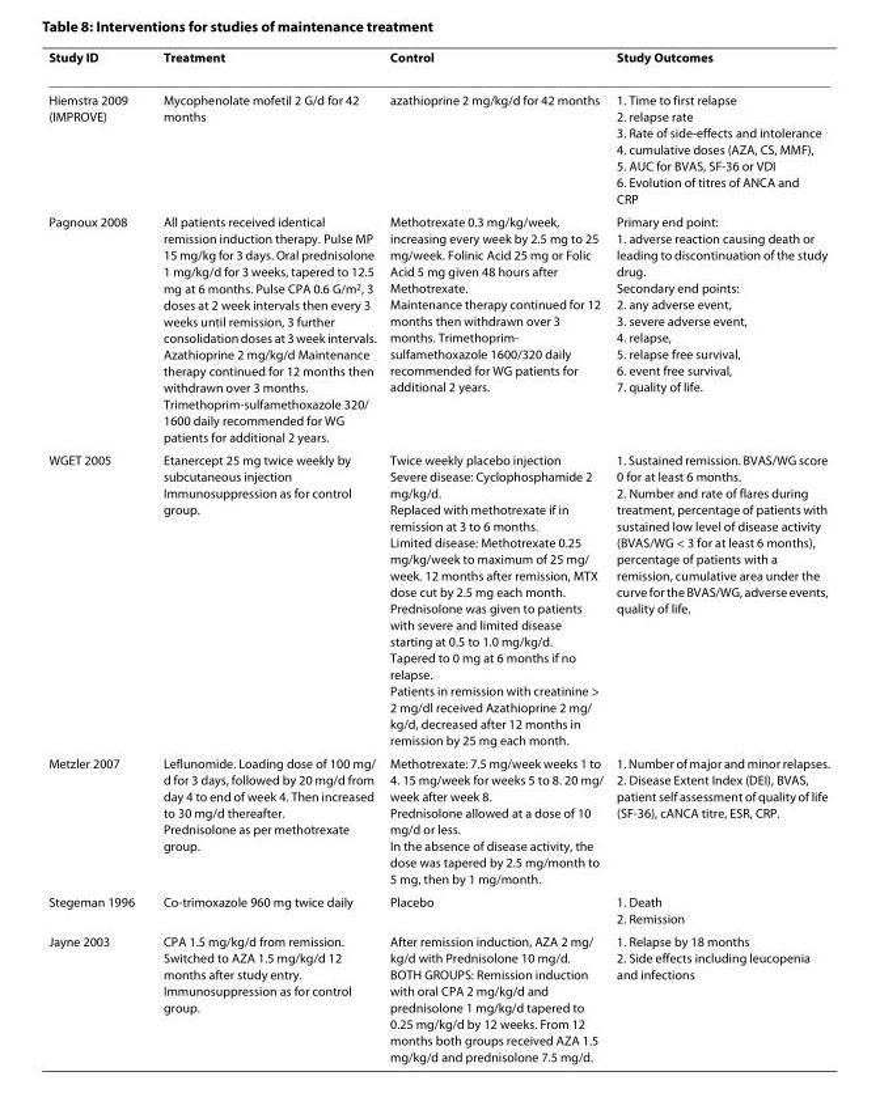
<table><thead><tr><td>Study ID</td><td>Treatment</td><td>Control</td><td>Study Outcomes</td></tr></thead><tbody><tr><td>Hiemstra 2009 (IMPROVE)</td><td>Mycophenolate mofetil 2 G/d for 42 months</td><td>azathioprine 2 mg/kg/d for 42 months</td><td>1. Time to first relapse 2. relapse rate 3. Rate of side-effects and intolerance 4. cumulative doses (AZA, CS, MMF), 5. AUC for BVAS, SF-36 or VDI 6. Evolution of titres of ANCA and CRP</td></tr><tr><td>Pagnoux 2008</td><td>All patients received identical remission induction therapy. Pulse MP 15 mg/kg for 3 days. Oral prednisolone 1 mg/kg/d for 3 weeks, tapered to 12.5 mg at 6 months. Pulse CPA 0.6 G/m<sup>2</sup>, 3 doses at 2 week intervals then every 3 weeks until remission, 3 further consolidation doses at 3 week intervals. Azathioprine 2 mg/kg/d Maintenance therapy continued for 12 months then withdrawn over 3 months. Trimethoprim-sulfamethoxazole 320/ 1600 daily recommended for WG patients for additional 2 years.</td><td>Methotrexate 0.3 mg/kg/week, increasing every week by 2.5 mg to 25 mg/week. Folinic Acid 25 mg or Folic Acid 5 mg given 48 hours after Methotrexate. Maintenance therapy continued for 12 months then withdrawn over 3 months. Trimethoprim- sulfamethoxazole 1600/320 daily recommended for WG patients for additional 2 years.</td><td>Primary end point: 1. adverse reaction causing death or leading to discontinuation of the study drug. Secondary end points: 2. any adverse event, 3. severe adverse event, 4. relapse, 5. relapse free survival, 6. event free survival, 7. quality of life.</td></tr><tr><td>WGET 2005</td><td>Etanercept 25 mg twice weekly by subcutaneous injection Immunosuppression as for control group.</td><td>Twice weekly placebo injection Severe disease: Cyclophosphamide 2 mg/kg/d. Replaced with methotrexate if in remission at 3 to 6 months. Limited disease: Methotrexate 0.25 mg/kg/week to maximum of 25 mg/ week. 12 months after remission, MTX dose cut by 2.5 mg each month. Prednisolone was given to patients with severe and limited disease starting at 0.5 to 1.0 mg/kg/d. Tapered to 0 mg at 6 months if no relapse. Patients in remission with creatinine &gt; 2 mg/dl received Azathioprine 2 mg/ kg/d, decreased after 12 months in remission by 25 mg each month.</td><td>1. Sustained remission. BVAS/WG score 0 for at least 6 months. 2. Number and rate of flares during treatment, percentage of patients with sustained low level of disease activity (BVAS/WG &lt; 3 for at least 6 months), percentage of patients with a remission, cumulative area under the curve for the BVAS/WG, adverse events, quality of life.</td></tr><tr><td>Metzler 2007</td><td>Leflunomide. Loading dose of 100 mg/ d for 3 days, followed by 20 mg/d from day 4 to end of week 4. Then increased to 30 mg/d thereafter. Prednisolone as per methotrexate group.</td><td>Methotrexate: 7.5 mg/week weeks 1 to 4. 15 mg/week for weeks 5 to 8. 20 mg/ week after week 8. Prednisolone allowed at a dose of 10 mg/d or less. In the absence of disease activity, the dose was tapered by 2.5 mg/month to 5 mg, then by 1 mg/month.</td><td>1. Number of major and minor relapses. 2. Disease Extent Index (DEI), BVAS, patient self assessment of quality of life (SF-36), cANCA titre, ESR, CRP.</td></tr><tr><td>Stegeman 1996</td><td>Co-trimoxazole 960 mg twice daily</td><td>Placebo</td><td>1. Death 2. Remission</td></tr><tr><td>Jayne 2003</td><td>CPA 1.5 mg/kg/d from remission. Switched to AZA 1.5 mg/kg/d 12 months after study entry. Immunosuppression as for control group.</td><td>After remission induction, AZA 2 mg/ kg/d with Prednisolone 10 mg/d. BOTH GROUPS: Remission induction with oral CPA 2 mg/kg/d and prednisolone 1 mg/kg/d tapered to 0.25 mg/kg/d by 12 weeks. From 12 months both groups received AZA 1.5 mg/kg/d and prednisolone 7.5 mg/d.</td><td>1. Relapse by 18 months 2. Side effects including leucopenia and infections</td></tr></tbody></table>